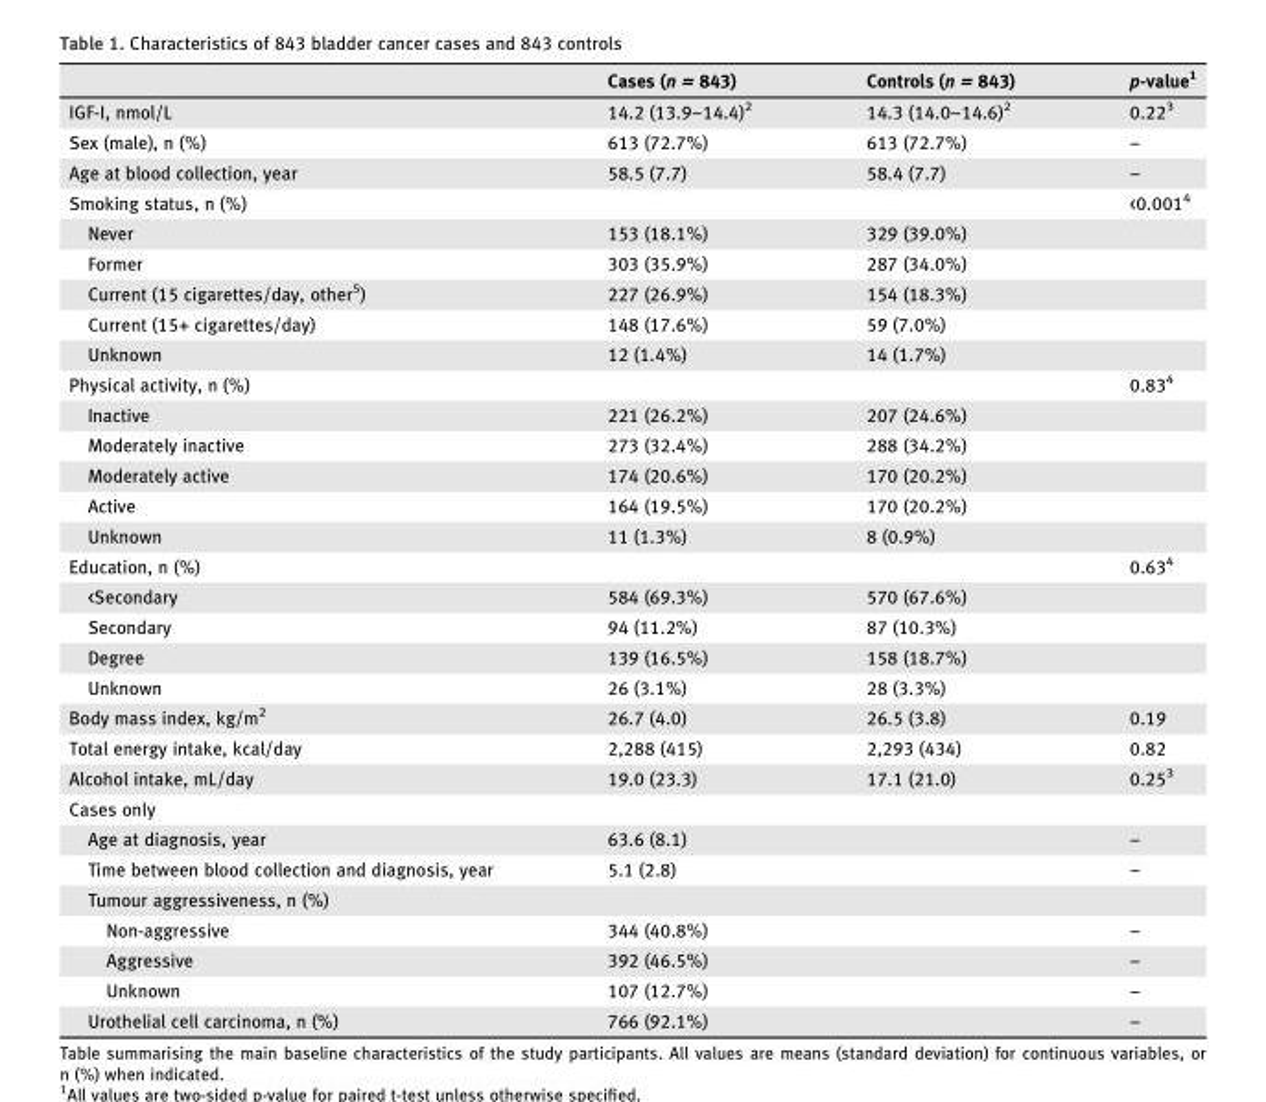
<table><thead><tr><td></td><td>Cases (n = 843)</td><td>Controls (n = 843)</td><td>p-value<sup>1</sup></td></tr></thead><tbody><tr><td>IGF-I, nmol/L</td><td>14.2 (13.9–14.4)<sup>2</sup></td><td>14.3 (14.0–14.6)<sup>2</sup></td><td>0.22<sup>3</sup></td></tr><tr><td>Sex (male), n (%)</td><td>613 (72.7%)</td><td>613 (72.7%)</td><td>–</td></tr><tr><td>Age at blood collection, year</td><td>58.5 (7.7)</td><td>58.4 (7.7)</td><td>–</td></tr><tr><td>Smoking status, n (%)</td><td></td><td></td><td>&lt;0.001<sup>4</sup></td></tr><tr><td>Never</td><td>153 (18.1%)</td><td>329 (39.0%)</td><td></td></tr><tr><td>Former</td><td>303 (35.9%)</td><td>287 (34.0%)</td><td></td></tr><tr><td>Current (15 cigarettes/day, other5)</td><td>227 (26.9%)</td><td>154 (18.3%)</td><td></td></tr><tr><td>Current (15+ cigarettes/day)</td><td>148 (17.6%)</td><td>59 (7.0%)</td><td></td></tr><tr><td>Unknown</td><td>12 (1.4%)</td><td>14 (1.7%)</td><td></td></tr><tr><td>Physical activity, n (%)</td><td></td><td></td><td>0.83<sup>4</sup></td></tr><tr><td>Inactive</td><td>221 (26.2%)</td><td>207 (24.6%)</td><td></td></tr><tr><td>Moderately inactive</td><td>273 (32.4%)</td><td>288 (34.2%)</td><td></td></tr><tr><td>Moderately active</td><td>174 (20.6%)</td><td>170 (20.2%)</td><td></td></tr><tr><td>Active</td><td>164 (19.5%)</td><td>170 (20.2%)</td><td></td></tr><tr><td>Unknown</td><td>11 (1.3%)</td><td>8 (0.9%)</td><td></td></tr><tr><td>Education, n (%)</td><td></td><td></td><td>0.63<sup>4</sup></td></tr><tr><td>&lt;Secondary</td><td>584 (69.3%)</td><td>570 (67.6%)</td><td></td></tr><tr><td>Secondary</td><td>94 (11.2%)</td><td>87 (10.3%)</td><td></td></tr><tr><td>Degree</td><td>139 (16.5%)</td><td>158 (18.7%)</td><td></td></tr><tr><td>Unknown</td><td>26 (3.1%)</td><td>28 (3.3%)</td><td></td></tr><tr><td>Body mass index, kg/m<sup>2</sup></td><td>26.7 (4.0)</td><td>26.5 (3.8)</td><td>0.19</td></tr><tr><td>Total energy intake, kcal/day</td><td>2,288 (415)</td><td>2,293 (434)</td><td>0.82</td></tr><tr><td>Alcohol intake, mL/day</td><td>19.0 (23.3)</td><td>17.1 (21.0)</td><td>0.25<sup>3</sup></td></tr><tr><td colspan="4">Cases only</td></tr><tr><td>Age at diagnosis, year</td><td>63.6 (8.1)</td><td></td><td>–</td></tr><tr><td>Time between blood collection and diagnosis, year</td><td>5.1 (2.8)</td><td></td><td>–</td></tr><tr><td colspan="4">Tumour aggressiveness, n (%)</td></tr><tr><td>Non-aggressive</td><td>344 (40.8%)</td><td></td><td>–</td></tr><tr><td>Aggressive</td><td>392 (46.5%)</td><td></td><td>–</td></tr><tr><td>Unknown</td><td>107 (12.7%)</td><td></td><td>–</td></tr><tr><td>Urothelial cell carcinoma, n (%)</td><td>766 (92.1%)</td><td></td><td>–</td></tr></tbody></table>